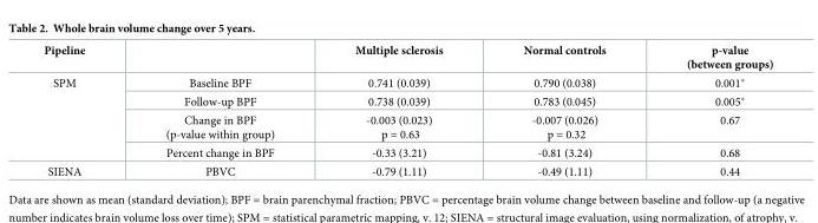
<table><thead><tr><td>Pipeline</td><td></td><td>Multiple sclerosis</td><td>Normal controls</td><td>p-value (between groups)</td></tr></thead><tbody><tr><td rowspan="4">SPM</td><td>Baseline BPF</td><td>0.741 (0.039)</td><td>0.790 (0.038)</td><td>0.001*</td></tr><tr><td>Follow-up BPF</td><td>0.738 (0.039)</td><td>0.783 (0.045)</td><td>0.005*</td></tr><tr><td>Change in BPF (p-value within group)</td><td>-0.003 (0.023) p = 0.63</td><td>-0.007 (0.026) p = 0.32</td><td>0.67</td></tr><tr><td>Percent change in BPF</td><td>-0.33 (3.21)</td><td>-0.81 (3.24)</td><td>0.68</td></tr><tr><td>SIENA</td><td>PBVC</td><td>-0.79 (1.11)</td><td>-0.49 (1.11)</td><td>0.44</td></tr></tbody></table>